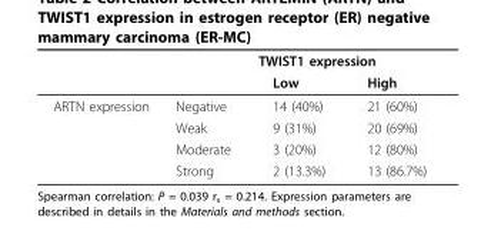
<table><thead><tr><td rowspan="2"></td><td colspan="3">TWIST1 expression</td></tr><tr><td></td><td>Low</td><td>High</td></tr></thead><tbody><tr><td rowspan="4">ARTN expression</td><td>Negative</td><td>14 (40%)</td><td>21 (60%)</td></tr><tr><td>Weak</td><td>9 (31%)</td><td>20 (69%)</td></tr><tr><td>Moderate</td><td>3 (20%)</td><td>12 (80%)</td></tr><tr><td>Strong</td><td>2 (13.3%)</td><td>13 (86.7%)</td></tr></tbody></table>